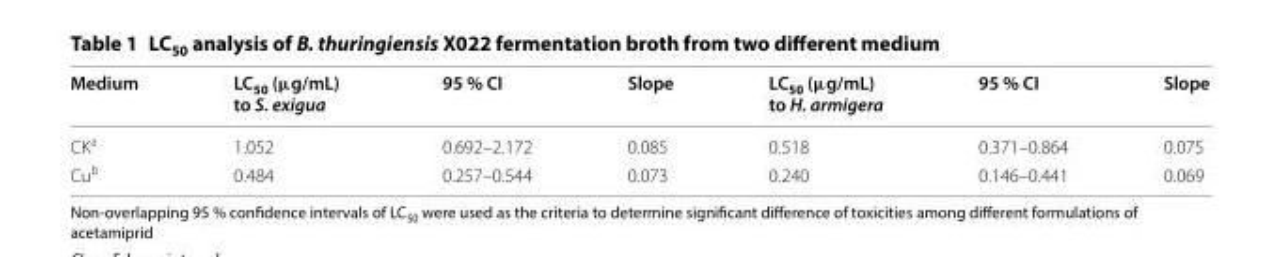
<table><thead><tr><td>Medium</td><td>LC<sub>50</sub> (μg/mL) to S. exigua</td><td>95 % CI</td><td>Slope</td><td>LC<sub>50</sub> (μg/mL) to H. armigera</td><td>95 % CI</td><td>Slope</td></tr></thead><tbody><tr><td>CK<sup>a</sup></td><td>1.052</td><td>0.692–2.172</td><td>0.085</td><td>0.518</td><td>0.371–0.864</td><td>0.075</td></tr><tr><td>Cu<sup>b</sup></td><td>0.484</td><td>0.257–0.544</td><td>0.073</td><td>0.240</td><td>0.146–0.441</td><td>0.069</td></tr></tbody></table>